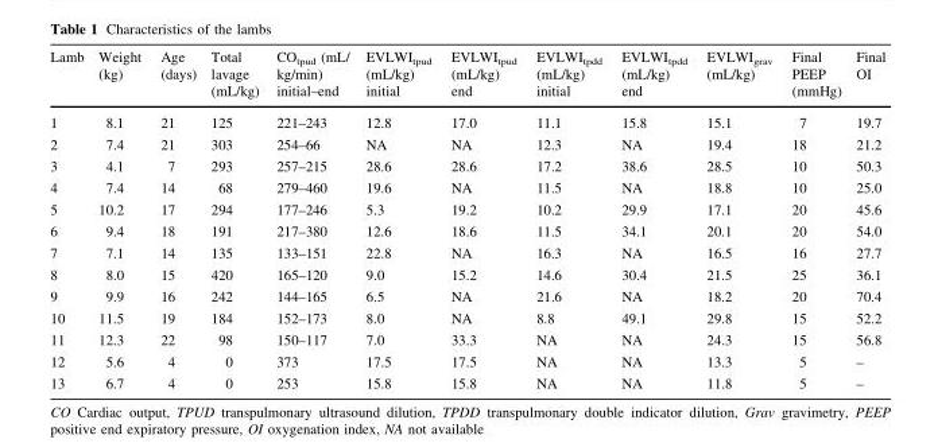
<table><thead><tr><td>Lamb</td><td>Weight (kg)</td><td>Age (days)</td><td>Total lavage (mL/kg)</td><td>CO<sub>tpud</sub> (mL/ kg/min) initial–end</td><td>EVLWI<sub>tpud</sub> (mL/kg) initial</td><td>EVLWI<sub>tpud</sub> (mL/kg) end</td><td>EVLWI<sub>tpdd</sub> (mL/kg) initial</td><td>EVLWI<sub>tpdd</sub> (mL/kg) end</td><td>EVLWI<sub>grav</sub> (mL/kg)</td><td>Final PEEP (mmHg)</td><td>Final OI</td></tr></thead><tbody><tr><td>1</td><td>8.1</td><td>21</td><td>125</td><td>221–243</td><td>12.8</td><td>17.0</td><td>11.1</td><td>15.8</td><td>15.1</td><td>7</td><td>19.7</td></tr><tr><td>2</td><td>7.4</td><td>21</td><td>303</td><td>254–66</td><td>NA</td><td>NA</td><td>12.3</td><td>NA</td><td>19.4</td><td>18</td><td>21.2</td></tr><tr><td>3</td><td>4.1</td><td>7</td><td>293</td><td>257–215</td><td>28.6</td><td>28.6</td><td>17.2</td><td>38.6</td><td>28.5</td><td>10</td><td>50.3</td></tr><tr><td>4</td><td>7.4</td><td>14</td><td>68</td><td>279–460</td><td>19.6</td><td>NA</td><td>11.5</td><td>NA</td><td>18.8</td><td>10</td><td>25.0</td></tr><tr><td>5</td><td>10.2</td><td>17</td><td>294</td><td>177–246</td><td>5.3</td><td>19.2</td><td>10.2</td><td>29.9</td><td>17.1</td><td>20</td><td>45.6</td></tr><tr><td>6</td><td>9.4</td><td>18</td><td>191</td><td>217–380</td><td>12.6</td><td>18.6</td><td>11.5</td><td>34.1</td><td>20.1</td><td>20</td><td>54.0</td></tr><tr><td>7</td><td>7.1</td><td>14</td><td>135</td><td>133–151</td><td>22.8</td><td>NA</td><td>16.3</td><td>NA</td><td>16.5</td><td>16</td><td>27.7</td></tr><tr><td>8</td><td>8.0</td><td>15</td><td>420</td><td>165–120</td><td>9.0</td><td>15.2</td><td>14.6</td><td>30.4</td><td>21.5</td><td>25</td><td>36.1</td></tr><tr><td>9</td><td>9.9</td><td>16</td><td>242</td><td>144–165</td><td>6.5</td><td>NA</td><td>21.6</td><td>NA</td><td>18.2</td><td>20</td><td>70.4</td></tr><tr><td>10</td><td>11.5</td><td>19</td><td>184</td><td>152–173</td><td>8.0</td><td>NA</td><td>8.8</td><td>49.1</td><td>29.8</td><td>15</td><td>52.2</td></tr><tr><td>11</td><td>12.3</td><td>22</td><td>98</td><td>150–117</td><td>7.0</td><td>33.3</td><td>NA</td><td>NA</td><td>24.3</td><td>15</td><td>56.8</td></tr><tr><td>12</td><td>5.6</td><td>4</td><td>0</td><td>373</td><td>17.5</td><td>17.5</td><td>NA</td><td>NA</td><td>13.3</td><td>5</td><td>–</td></tr><tr><td>13</td><td>6.7</td><td>4</td><td>0</td><td>253</td><td>15.8</td><td>15.8</td><td>NA</td><td>NA</td><td>11.8</td><td>5</td><td>–</td></tr></tbody></table>